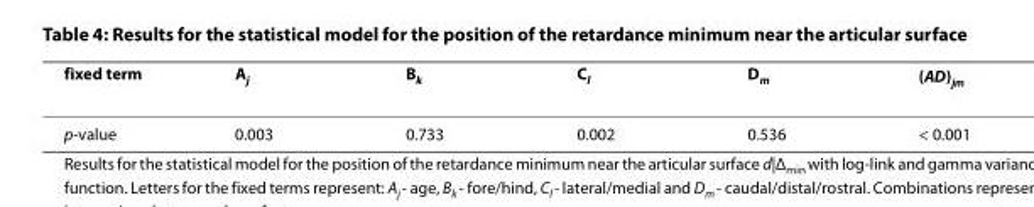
<table><thead><tr><td>fixed term</td><td>A<sub>j</sub></td><td>B<sub>k</sub></td><td>C<sub>l</sub></td><td>D<sub>m</sub></td><td>(AD)<sub>jm</sub></td></tr></thead><tbody><tr><td>p-value</td><td>0.003</td><td>0.733</td><td>0.002</td><td>0.536</td><td>&lt; 0.001</td></tr></tbody></table>